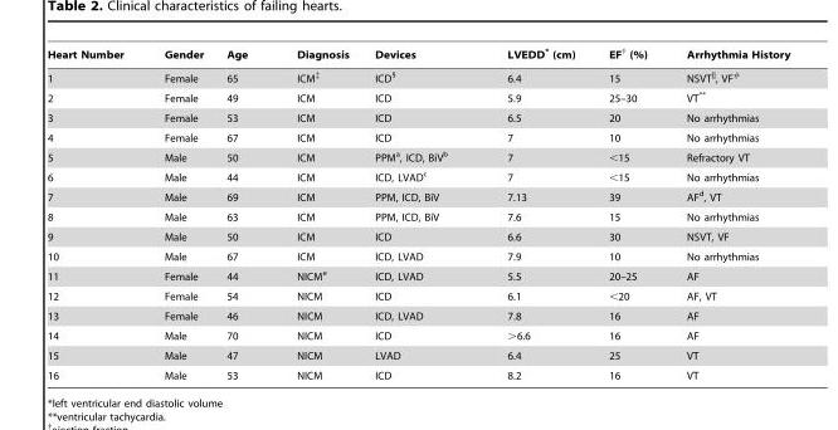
<table><thead><tr><td>Heart Number</td><td>Gender</td><td>Age</td><td>Diagnosis</td><td>Devices</td><td>LVEDD* (cm)</td><td>EF† (%)</td><td>Arrhythmia History</td></tr></thead><tbody><tr><td>1</td><td>Female</td><td>65</td><td>ICM‡</td><td>ICD§</td><td>6.4</td><td>15</td><td>NSVT||, VF#</td></tr><tr><td>2</td><td>Female</td><td>49</td><td>ICM</td><td>ICD</td><td>5.9</td><td>25–30</td><td>VT**</td></tr><tr><td>3</td><td>Female</td><td>53</td><td>ICM</td><td>ICD</td><td>6.5</td><td>20</td><td>No arrhythmias</td></tr><tr><td>4</td><td>Female</td><td>67</td><td>ICM</td><td>ICD</td><td>7</td><td>10</td><td>No arrhythmias</td></tr><tr><td>5</td><td>Male</td><td>50</td><td>ICM</td><td>PPM<sup>a</sup>, ICD, BiV<sup>b</sup></td><td>7</td><td>&lt;15</td><td>Refractory VT</td></tr><tr><td>6</td><td>Male</td><td>44</td><td>ICM</td><td>ICD, LVAD<sup>c</sup></td><td>7</td><td>&lt;15</td><td>No arrhythmias</td></tr><tr><td>7</td><td>Male</td><td>69</td><td>ICM</td><td>PPM, ICD, BiV</td><td>7.13</td><td>39</td><td>AF<sup>d</sup>, VT</td></tr><tr><td>8</td><td>Male</td><td>63</td><td>ICM</td><td>PPM, ICD, BiV</td><td>7.6</td><td>15</td><td>No arrhythmias</td></tr><tr><td>9</td><td>Male</td><td>50</td><td>ICM</td><td>ICD</td><td>6.6</td><td>30</td><td>NSVT, VF</td></tr><tr><td>10</td><td>Male</td><td>67</td><td>ICM</td><td>ICD, LVAD</td><td>7.9</td><td>10</td><td>No arrhythmias</td></tr><tr><td>11</td><td>Female</td><td>44</td><td>NICM<sup>e</sup></td><td>ICD, LVAD</td><td>5.5</td><td>20–25</td><td>AF</td></tr><tr><td>12</td><td>Female</td><td>54</td><td>NICM</td><td>ICD</td><td>6.1</td><td>&lt;20</td><td>AF, VT</td></tr><tr><td>13</td><td>Female</td><td>46</td><td>NICM</td><td>ICD, LVAD</td><td>7.8</td><td>16</td><td>AF</td></tr><tr><td>14</td><td>Male</td><td>70</td><td>NICM</td><td>ICD</td><td>&gt;6.6</td><td>16</td><td>AF</td></tr><tr><td>15</td><td>Male</td><td>47</td><td>NICM</td><td>LVAD</td><td>6.4</td><td>25</td><td>VT</td></tr><tr><td>16</td><td>Male</td><td>53</td><td>NICM</td><td>ICD</td><td>8.2</td><td>16</td><td>VT</td></tr></tbody></table>